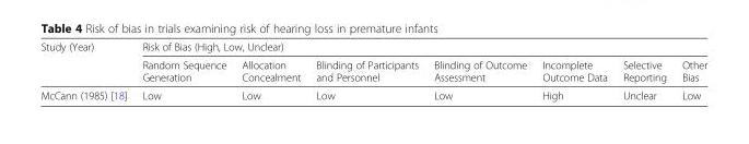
<table><thead><tr><td rowspan="2">Study (Year)</td><td colspan="7">Risk of Bias (High, Low, Unclear)</td></tr><tr><td>Random Sequence Generation</td><td>Allocation Concealment</td><td>Blinding of Participants and Personnel</td><td>Blinding of Outcome Assessment</td><td>Incomplete Outcome Data</td><td>Selective Reporting</td><td>Other Bias</td></tr></thead><tbody><tr><td>McCann (1985) [18]</td><td>Low</td><td>Low</td><td>Low</td><td>Low</td><td>High</td><td>Unclear</td><td>Low</td></tr></tbody></table>